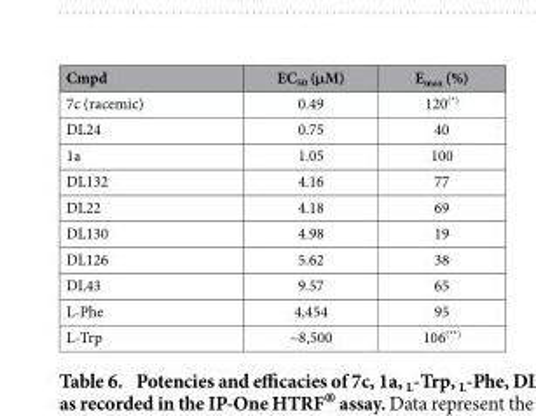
<table><thead><tr><td>Cmpd</td><td>EC<sub>50</sub> (μM)</td><td>E<sub>max</sub> (%)</td></tr></thead><tbody><tr><td>7c (racemic)</td><td>0.49</td><td>120<sup>(*)</sup></td></tr><tr><td>DL24</td><td>0.75</td><td>40</td></tr><tr><td>1a</td><td>1.05</td><td>100</td></tr><tr><td>DL132</td><td>4.16</td><td>77</td></tr><tr><td>DL22</td><td>4.18</td><td>69</td></tr><tr><td>DL130</td><td>4.98</td><td>19</td></tr><tr><td>DL126</td><td>5.62</td><td>38</td></tr><tr><td>DL43</td><td>9.57</td><td>65</td></tr><tr><td>L-Phe</td><td>4,454</td><td>95</td></tr><tr><td>L-Trp</td><td>~8,500</td><td>106<sup>(**)</sup></td></tr></tbody></table>